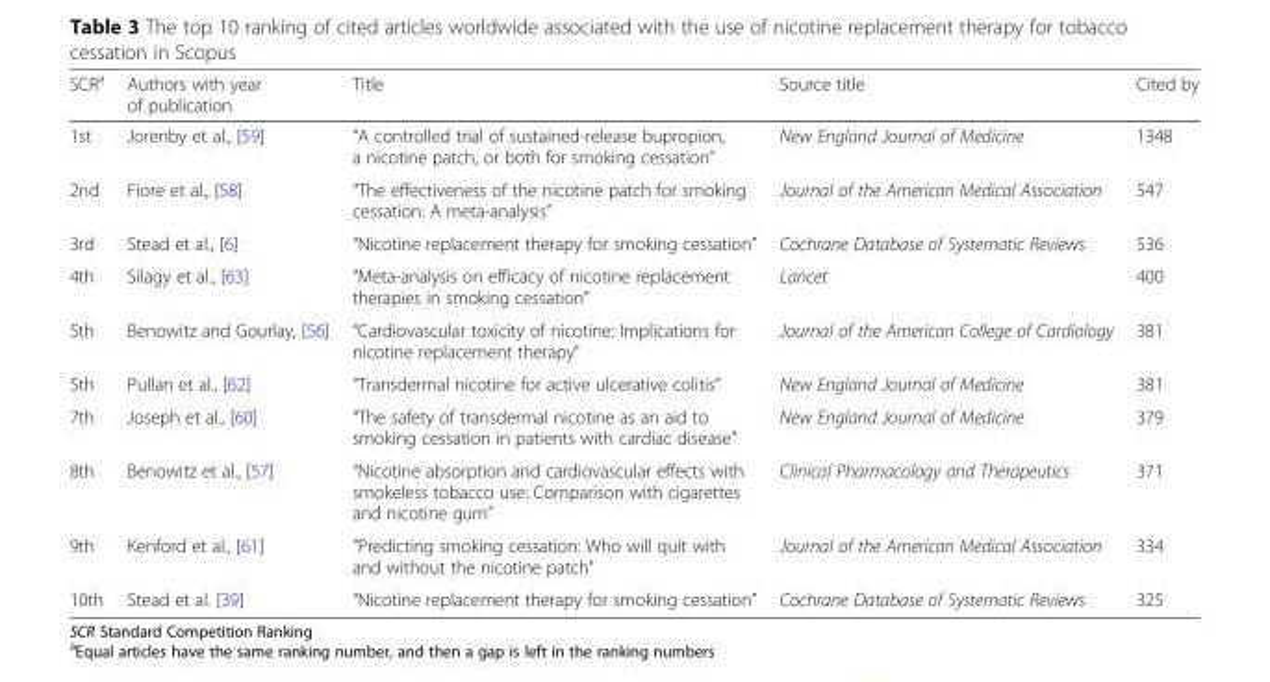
<table><thead><tr><td>SCR<sup>a</sup></td><td>Authors with year of publication</td><td>Title</td><td>Source title</td><td>Cited by</td></tr></thead><tbody><tr><td>1st</td><td>Jorenby et al., [59]</td><td>“A controlled trial of sustained-release bupropion, a nicotine patch, or both for smoking cessation”</td><td>New England Journal of Medicine</td><td>1348</td></tr><tr><td>2nd</td><td>Fiore et al., [58]</td><td>“The effectiveness of the nicotine patch for smoking cessation: A meta-analysis”</td><td>Journal of the American Medical Association</td><td>547</td></tr><tr><td>3rd</td><td>Stead et al., [6]</td><td>“Nicotine replacement therapy for smoking cessation”</td><td>Cochrane Database of Systematic Reviews</td><td>536</td></tr><tr><td>4th</td><td>Silagy et al., [63]</td><td>“Meta-analysis on efficacy of nicotine replacement therapies in smoking cessation”</td><td>Lancet</td><td>400</td></tr><tr><td>5th</td><td>Benowitz and Gourlay, [56]</td><td>“Cardiovascular toxicity of nicotine: Implications for nicotine replacement therapy”</td><td>Journal of the American College of Cardiology</td><td>381</td></tr><tr><td>5th</td><td>Pullan et al., [62]</td><td>“Transdermal nicotine for active ulcerative colitis”</td><td>New England Journal of Medicine</td><td>381</td></tr><tr><td>7th</td><td>Joseph et al., [60]</td><td>“The safety of transdermal nicotine as an aid to smoking cessation in patients with cardiac disease”</td><td>New England Journal of Medicine</td><td>379</td></tr><tr><td>8th</td><td>Benowitz et al., [57]</td><td>“Nicotine absorption and cardiovascular effects with smokeless tobacco use: Comparison with cigarettes and nicotine gum”</td><td>Clinical Pharmacology and Therapeutics</td><td>371</td></tr><tr><td>9th</td><td>Kenford et al., [61]</td><td>“Predicting smoking cessation: Who will quit with and without the nicotine patch”</td><td>Journal of the American Medical Association</td><td>334</td></tr><tr><td>10th</td><td>Stead et al. [39]</td><td>“Nicotine replacement therapy for smoking cessation”</td><td>Cochrane Database of Systematic Reviews</td><td>325</td></tr></tbody></table>